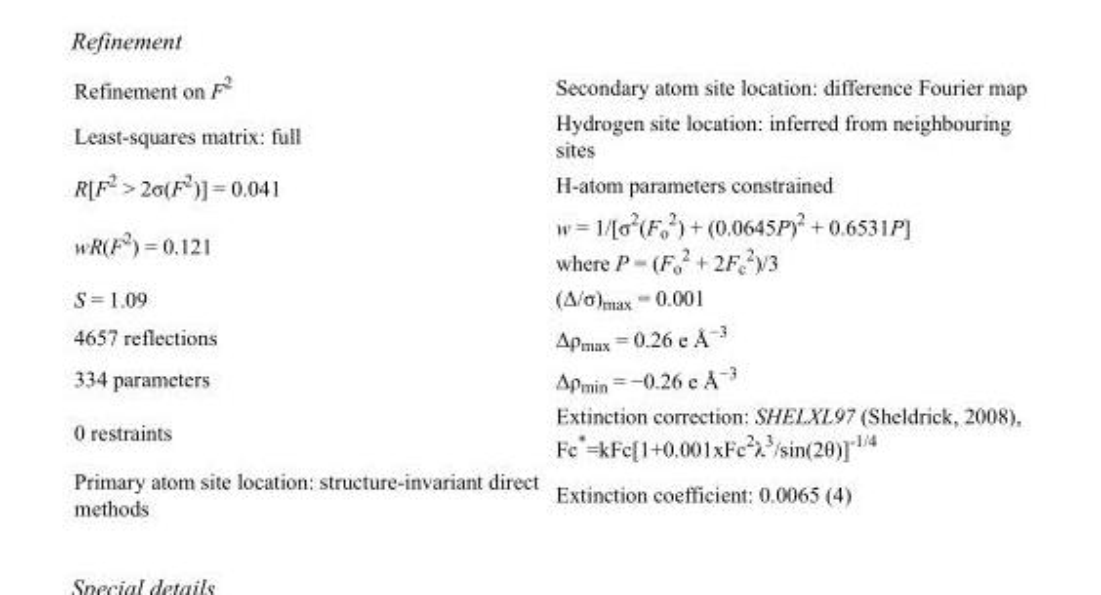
<table><tbody><tr><td>Refinement on F<sup>2</sup></td><td>Secondary atom site location: difference Fourier map</td></tr><tr><td>Least-squares matrix: full</td><td>Hydrogen site location: inferred from neighbouring sites</td></tr><tr><td>R[F<sup>2</sup> &gt; 2σ(F<sup>2</sup>)] = 0.041</td><td>H-atom parameters constrained</td></tr><tr><td>wR(F<sup>2</sup>) = 0.121</td><td>w = 1/[σ<sup>2</sup>(F<sub>o</sub> <sup>2</sup>) + (0.0645P)<sup>2</sup> + 0.6531P] where P = (F<sub>o</sub> <sup>2</sup> + 2F<sub>c</sub> <sup>2</sup>)/3</td></tr><tr><td>S = 1.09</td><td>(Δ/σ)<sub>max</sub> = 0.001</td></tr><tr><td>4657 reflections</td><td>Δρ<sub>max</sub> = 0.26 e Å<sup>−3</sup></td></tr><tr><td>334 parameters</td><td>Δρ<sub>min</sub> = −0.26 e Å<sup>−3</sup></td></tr><tr><td>0 restraints</td><td>Extinction correction: SHELXL97 (Sheldrick, 2008), Fc*=kFc[1+0.001xFc<sup>2</sup>λ<sup>3</sup>/sin(2θ)]<sup>-1/4</sup></td></tr><tr><td>Primary atom site location: structure-invariant direct methods</td><td>Extinction coefficient: 0.0065 (4)</td></tr></tbody></table>